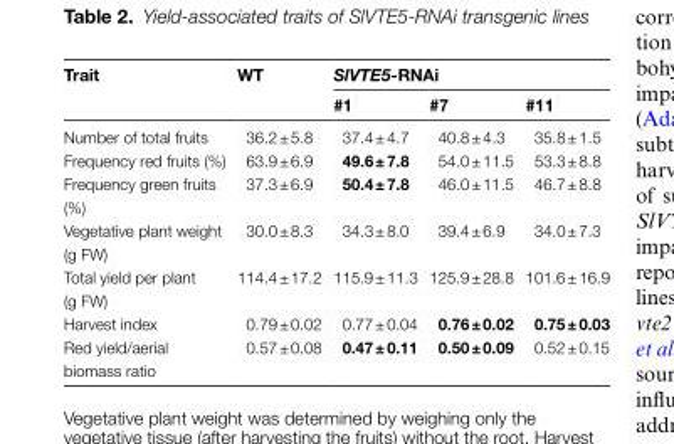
<table><thead><tr><td rowspan="2">Trait</td><td rowspan="2">WT</td><td colspan="3">SlVTE5-RNAi</td></tr><tr><td>#1</td><td>#7</td><td>#11</td></tr></thead><tbody><tr><td>Number of total fruits</td><td>36.2 ± 5.8</td><td>37.4 ± 4.7</td><td>40.8 ± 4.3</td><td>35.8 ± 1.5</td></tr><tr><td>Frequency red fruits (%)</td><td>63.9 ± 6.9</td><td>49.6 ± 7.8</td><td>54.0 ± 11.5</td><td>53.3 ± 8.8</td></tr><tr><td>Frequency green fruits (%)</td><td>37.3 ± 6.9</td><td>50.4 ± 7.8</td><td>46.0 ± 11.5</td><td>46.7 ± 8.8</td></tr><tr><td>Vegetative plant weight (g FW)</td><td>30.0 ± 8.3</td><td>34.3 ± 8.0</td><td>39.4 ± 6.9</td><td>34.0 ± 7.3</td></tr><tr><td>Total yield per plant (g FW)</td><td>114.4 ± 17.2</td><td>115.9 ± 11.3</td><td>125.9 ± 28.8</td><td>101.6 ± 16.9</td></tr><tr><td>Harvest index</td><td>0.79 ± 0.02</td><td>0.77 ± 0.04</td><td>0.76 ± 0.02</td><td>0.75 ± 0.03</td></tr><tr><td>Red yield/aerial biomass ratio</td><td>0.57 ± 0.08</td><td>0.47 ± 0.11</td><td>0.50 ± 0.09</td><td>0.52 ± 0.15</td></tr></tbody></table>